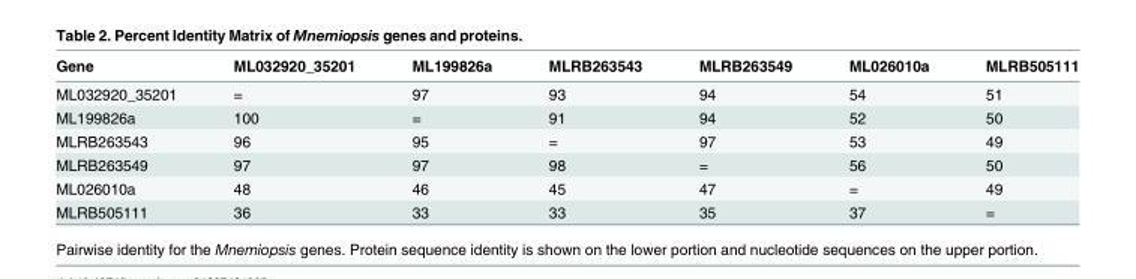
<table><thead><tr><td>Gene</td><td>ML032920_35201</td><td>ML199826a</td><td>MLRB263543</td><td>MLRB263549</td><td>ML026010a</td><td>MLRB505111</td></tr></thead><tbody><tr><td>ML032920_35201</td><td>=</td><td>97</td><td>93</td><td>94</td><td>54</td><td>51</td></tr><tr><td>ML199826a</td><td>100</td><td>=</td><td>91</td><td>94</td><td>52</td><td>50</td></tr><tr><td>MLRB263543</td><td>96</td><td>95</td><td>=</td><td>97</td><td>53</td><td>49</td></tr><tr><td>MLRB263549</td><td>97</td><td>97</td><td>98</td><td>=</td><td>56</td><td>50</td></tr><tr><td>ML026010a</td><td>48</td><td>46</td><td>45</td><td>47</td><td>=</td><td>49</td></tr><tr><td>MLRB505111</td><td>36</td><td>33</td><td>33</td><td>35</td><td>37</td><td>=</td></tr></tbody></table>